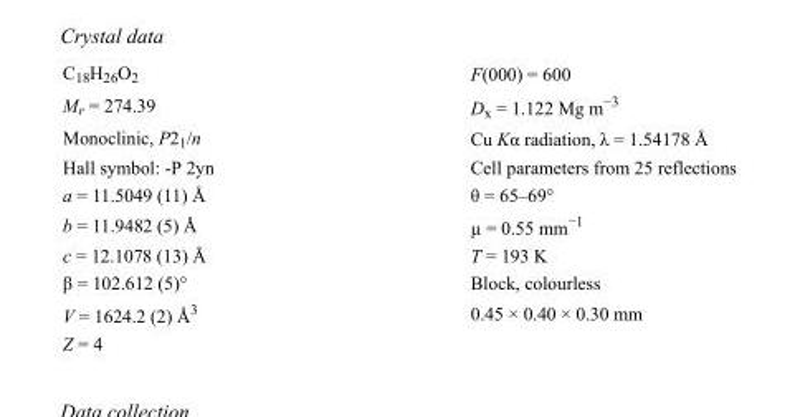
<table><tbody><tr><td>C<sub>18</sub>H<sub>26</sub>O<sub>2</sub></td><td>F(000) = 600</td></tr><tr><td>M<sub>r</sub> = 274.39</td><td>D<sub>x</sub> = 1.122 Mg m<sup>−3</sup></td></tr><tr><td>Monoclinic, P2<sub>1</sub>/n</td><td>Cu Kα radiation, λ = 1.54178 Å</td></tr><tr><td>Hall symbol: -P 2yn</td><td>Cell parameters from 25 reflections</td></tr><tr><td>a = 11.5049 (11) Å</td><td>θ = 65–69°</td></tr><tr><td>b = 11.9482 (5) Å</td><td>µ = 0.55 mm<sup>−1</sup></td></tr><tr><td>c = 12.1078 (13) Å</td><td>T = 193 K</td></tr><tr><td>β = 102.612 (5)°</td><td>Block, colourless</td></tr><tr><td>V = 1624.2 (2) Å<sup>3</sup></td><td>0.45 × 0.40 × 0.30 mm</td></tr><tr><td>Z = 4</td><td></td></tr></tbody></table>